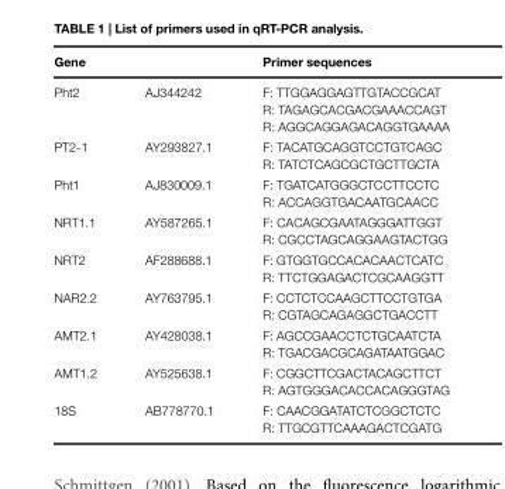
<table><thead><tr><td>Gene</td><td></td><td>Primer sequences</td></tr></thead><tbody><tr><td>Pht2</td><td>AJ344242</td><td>F: TTGGAGGAGTTGTACCGCAT R: TAGAGCACGACGAAACCAGT R: AGGCAGGAGACAGGTGAAAA</td></tr><tr><td>PT2-1</td><td>AY293827.1</td><td>F: TACATGCAGGTCCTGTCAGC R: TATCTCAGCGCTGCTTGCTA</td></tr><tr><td>Pht1</td><td>AJ830009.1</td><td>F: TGATCATGGGCTCCTTCCTC R: ACCAGGTGACAATGCAACC</td></tr><tr><td>NRT1.1</td><td>AY587265.1</td><td>F: CACAGCGAATAGGGATTGGT R: CGCCTAGCAGGAAGTACTGG</td></tr><tr><td>NRT2</td><td>AF288688.1</td><td>F: GTGGTGCCACACAACTCATC R: TTCTGGAGACTCGCAAGGTT</td></tr><tr><td>NAR2.2</td><td>AY763795.1</td><td>F: CCTCTCCAAGCTTCCTGTGA R: CGTAGCAGAGGCTGACCTT</td></tr><tr><td>AMT2.1</td><td>AY428038.1</td><td>F: AGCCGAACCTCTGCAATCTA R: TGACGACGCAGATAATGGAC</td></tr><tr><td>AMT1.2</td><td>AY525638.1</td><td>F: CGGCTTCGACTACAGCTTCT R: AGTGGGACACCACAGGGTAG</td></tr><tr><td>18S</td><td>AB778770.1</td><td>F: CAACGGATATCTCGGCTCTC R: TTGCGTTCAAAGACTCGATG</td></tr></tbody></table>